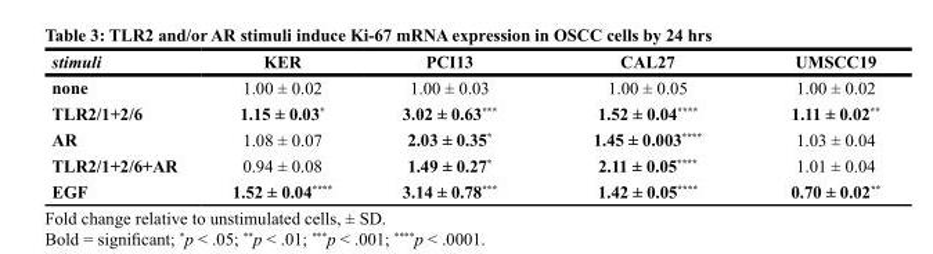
<table><thead><tr><td>stimuli</td><td>KER</td><td>PCI13</td><td>CAL27</td><td>UMSCC19</td></tr></thead><tbody><tr><td>none</td><td>1.00 ± 0.02</td><td>1.00 ± 0.03</td><td>1.00 ± 0.05</td><td>1.00 ± 0.02</td></tr><tr><td>TLR2/1+2/6</td><td>1.15 ± 0.03*</td><td>3.02 ± 0.63***</td><td>1.52 ± 0.04****</td><td>1.11 ± 0.02**</td></tr><tr><td>AR</td><td>1.08 ± 0.07</td><td>2.03 ± 0.35*</td><td>1.45 ± 0.003****</td><td>1.03 ± 0.04</td></tr><tr><td>TLR2/1+2/6+AR</td><td>0.94 ± 0.08</td><td>1.49 ± 0.27*</td><td>2.11 ± 0.05****</td><td>1.01 ± 0.04</td></tr><tr><td>EGF</td><td>1.52 ± 0.04****</td><td>3.14 ± 0.78***</td><td>1.42 ± 0.05****</td><td>0.70 ± 0.02**</td></tr></tbody></table>